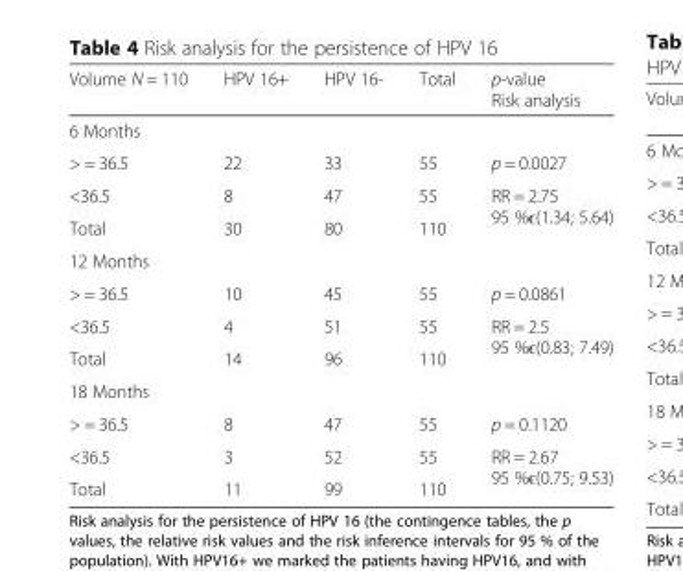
<table><thead><tr><td>Volume N = 110</td><td>HPV 16+</td><td>HPV 16-</td><td>Total</td><td>p-value Risk analysis</td></tr></thead><tbody><tr><td colspan="5">6 Months</td></tr><tr><td>&gt; = 36.5</td><td>22</td><td>33</td><td>55</td><td>p = 0.0027</td></tr><tr><td>&lt;36.5</td><td>8</td><td>47</td><td>55</td><td rowspan="2">RR = 2.75 95 %ϵ(1.34; 5.64)</td></tr><tr><td>Total</td><td>30</td><td>80</td><td>110</td></tr><tr><td colspan="5">12 Months</td></tr><tr><td>&gt; = 36.5</td><td>10</td><td>45</td><td>55</td><td>p = 0.0861</td></tr><tr><td>&lt;36.5</td><td>4</td><td>51</td><td>55</td><td rowspan="2">RR = 2.5 95 %ϵ(0.83; 7.49)</td></tr><tr><td>Total</td><td>14</td><td>96</td><td>110</td></tr><tr><td colspan="5">18 Months</td></tr><tr><td>&gt; = 36.5</td><td>8</td><td>47</td><td>55</td><td>p = 0.1120</td></tr><tr><td>&lt;36.5</td><td>3</td><td>52</td><td>55</td><td rowspan="2">RR = 2.67 95 %ϵ(0.75; 9.53)</td></tr><tr><td>Total</td><td>11</td><td>99</td><td>110</td></tr></tbody></table>